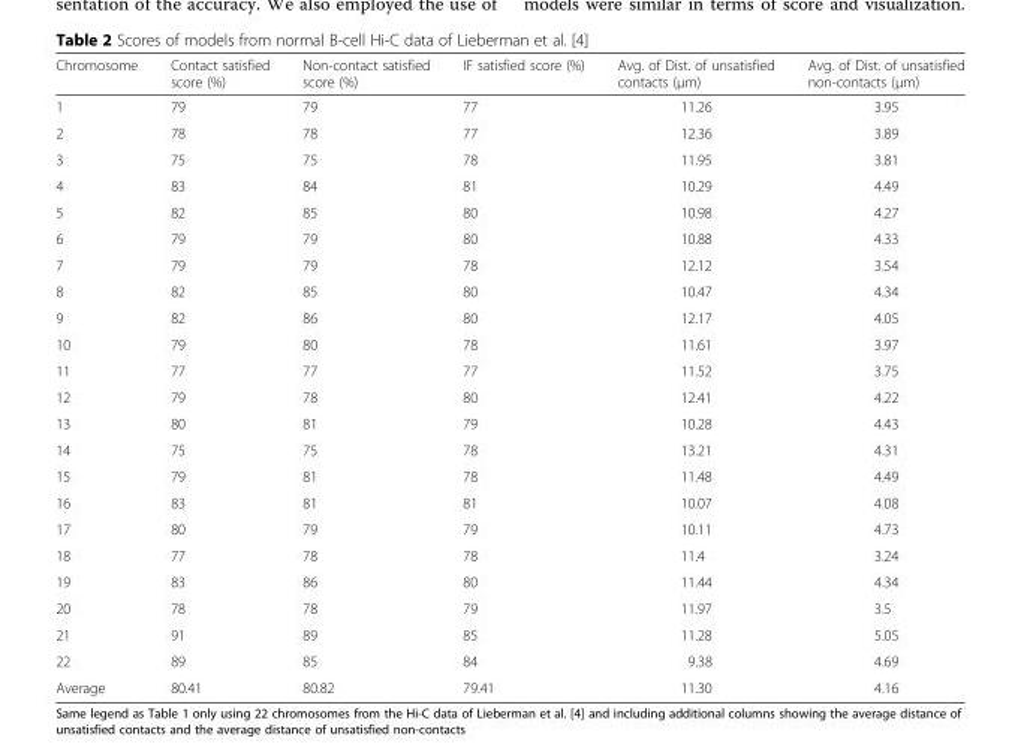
<table><thead><tr><td>Chromosome</td><td>Contact satisfied score (%)</td><td>Non-contact satisfied score (%)</td><td>IF satisfied score (%)</td><td>Avg. of Dist. of unsatisfied contacts (μm)</td><td>Avg. of Dist. of unsatisfied non-contacts (μm)</td></tr></thead><tbody><tr><td>1</td><td>79</td><td>79</td><td>77</td><td>11.26</td><td>3.95</td></tr><tr><td>2</td><td>78</td><td>78</td><td>77</td><td>12.36</td><td>3.89</td></tr><tr><td>3</td><td>75</td><td>75</td><td>78</td><td>11.95</td><td>3.81</td></tr><tr><td>4</td><td>83</td><td>84</td><td>81</td><td>10.29</td><td>4.49</td></tr><tr><td>5</td><td>82</td><td>85</td><td>80</td><td>10.98</td><td>4.27</td></tr><tr><td>6</td><td>79</td><td>79</td><td>80</td><td>10.88</td><td>4.33</td></tr><tr><td>7</td><td>79</td><td>79</td><td>78</td><td>12.12</td><td>3.54</td></tr><tr><td>8</td><td>82</td><td>85</td><td>80</td><td>10.47</td><td>4.34</td></tr><tr><td>9</td><td>82</td><td>86</td><td>80</td><td>12.17</td><td>4.05</td></tr><tr><td>10</td><td>79</td><td>80</td><td>78</td><td>11.61</td><td>3.97</td></tr><tr><td>11</td><td>77</td><td>77</td><td>77</td><td>11.52</td><td>3.75</td></tr><tr><td>12</td><td>79</td><td>78</td><td>80</td><td>12.41</td><td>4.22</td></tr><tr><td>13</td><td>80</td><td>81</td><td>79</td><td>10.28</td><td>4.43</td></tr><tr><td>14</td><td>75</td><td>75</td><td>78</td><td>13.21</td><td>4.31</td></tr><tr><td>15</td><td>79</td><td>81</td><td>78</td><td>11.48</td><td>4.49</td></tr><tr><td>16</td><td>83</td><td>81</td><td>81</td><td>10.07</td><td>4.08</td></tr><tr><td>17</td><td>80</td><td>79</td><td>79</td><td>10.11</td><td>4.73</td></tr><tr><td>18</td><td>77</td><td>78</td><td>78</td><td>11.4</td><td>3.24</td></tr><tr><td>19</td><td>83</td><td>86</td><td>80</td><td>11.44</td><td>4.34</td></tr><tr><td>20</td><td>78</td><td>78</td><td>79</td><td>11.97</td><td>3.5</td></tr><tr><td>21</td><td>91</td><td>89</td><td>85</td><td>11.28</td><td>5.05</td></tr><tr><td>22</td><td>89</td><td>85</td><td>84</td><td>9.38</td><td>4.69</td></tr><tr><td>Average</td><td>80.41</td><td>80.82</td><td>79.41</td><td>11.30</td><td>4.16</td></tr></tbody></table>